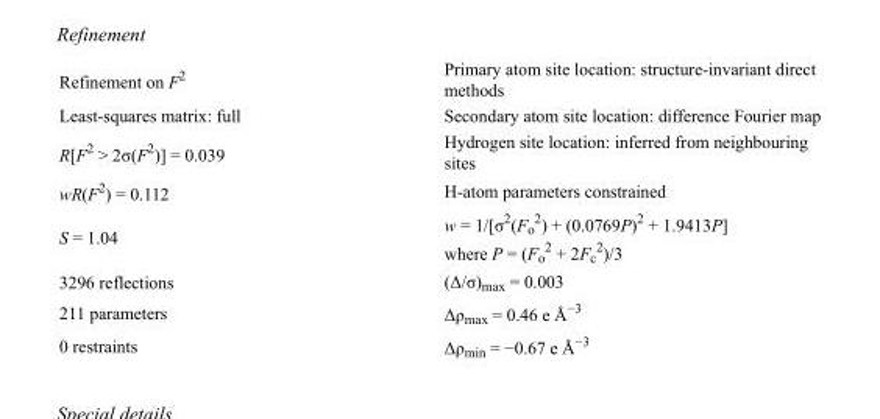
<table><tbody><tr><td>Refinement on F<sup>2</sup></td><td>Primary atom site location: structure-invariant direct methods</td></tr><tr><td>Least-squares matrix: full</td><td>Secondary atom site location: difference Fourier map</td></tr><tr><td>R[F<sup>2</sup> &gt; 2σ(F<sup>2</sup>)] = 0.039</td><td>Hydrogen site location: inferred from neighbouring sites</td></tr><tr><td>wR(F<sup>2</sup>) = 0.112</td><td>H-atom parameters constrained</td></tr><tr><td>S = 1.04</td><td>w = 1/[σ<sup>2</sup>(F<sub>o</sub> <sup>2</sup>) + (0.0769P)<sup>2</sup> + 1.9413P] where P = (F<sub>o</sub> <sup>2</sup> + 2F<sub>c</sub> <sup>2</sup>)/3</td></tr><tr><td>3296 reflections</td><td>(Δ/σ)<sub>max</sub> = 0.003</td></tr><tr><td>211 parameters</td><td>Δρ<sub>max</sub> = 0.46 e Å<sup>−3</sup></td></tr><tr><td>0 restraints</td><td>Δρ<sub>min</sub> = −0.67 e Å<sup>−3</sup></td></tr></tbody></table>